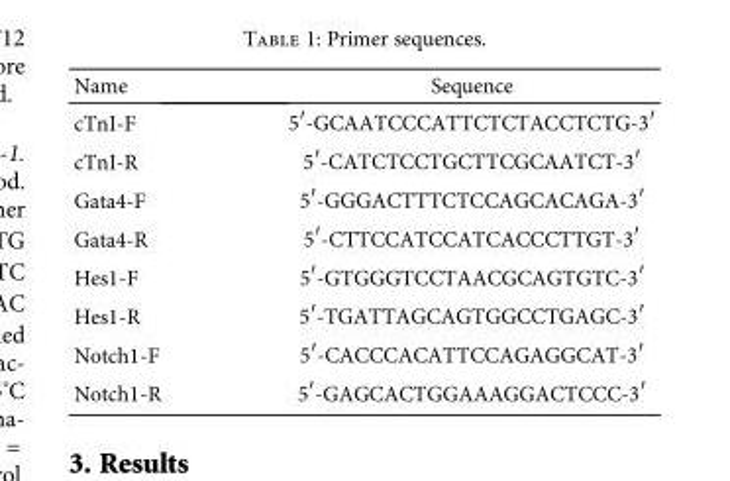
<table><thead><tr><td>Name</td><td>Sequence</td></tr></thead><tbody><tr><td>cTnI-F</td><td>5′-GCAATCCCATTCTCTACCTCTG-3′</td></tr><tr><td>cTnI-R</td><td>5′-CATCTCCTGCTTCGCAATCT-3′</td></tr><tr><td>Gata4-F</td><td>5′-GGGACTTTCTCCAGCACAGA-3′</td></tr><tr><td>Gata4-R</td><td>5′-CTTCCATCCATCACCCTTGT-3′</td></tr><tr><td>Hes1-F</td><td>5′-GTGGGTCCTAACGCAGTGTC-3′</td></tr><tr><td>Hes1-R</td><td>5′-TGATTAGCAGTGGCCTGAGC-3′</td></tr><tr><td>Notch1-F</td><td>5′-CACCCACATTCCAGAGGCAT-3′</td></tr><tr><td>Notch1-R</td><td>5′-GAGCACTGGAAAGGACTCCC-3′</td></tr></tbody></table>